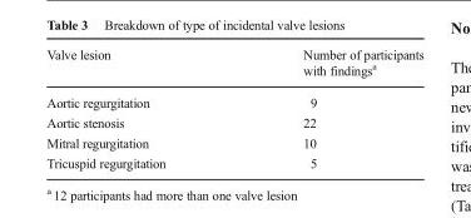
<table><thead><tr><td>Valve lesion</td><td>Number of participants with findings<sup>a</sup></td></tr></thead><tbody><tr><td>Aortic regurgitation</td><td>9</td></tr><tr><td>Aortic stenosis</td><td>22</td></tr><tr><td>Mitral regurgitation</td><td>10</td></tr><tr><td>Tricuspid regurgitation</td><td>5</td></tr></tbody></table>